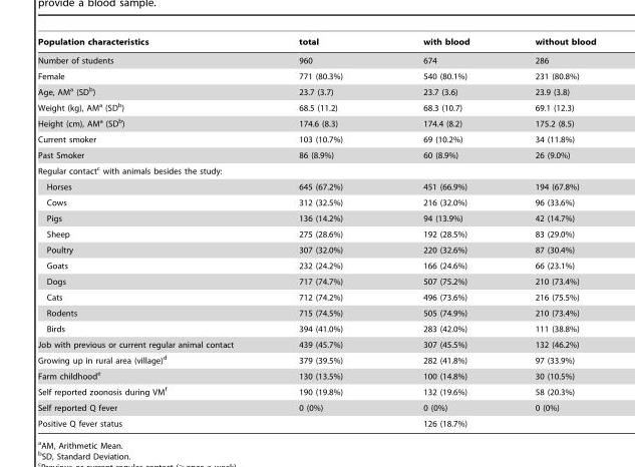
<table><thead><tr><td>Population characteristics</td><td>total</td><td>with blood</td><td>without blood</td></tr></thead><tbody><tr><td>Number of students</td><td>960</td><td>674</td><td>286</td></tr><tr><td>Female</td><td>771 (80.3%)</td><td>540 (80.1%)</td><td>231 (80.8%)</td></tr><tr><td>Age, AM<sup>a</sup> (SD<sup>b</sup>)</td><td>23.7 (3.7)</td><td>23.7 (3.6)</td><td>23.9 (3.8)</td></tr><tr><td>Weight (kg), AM<sup>a</sup> (SD<sup>b</sup>)</td><td>68.5 (11.2)</td><td>68.3 (10.7)</td><td>69.1 (12.3)</td></tr><tr><td>Height (cm), AM<sup>a</sup> (SD<sup>b</sup>)</td><td>174.6 (8.3)</td><td>174.4 (8.2)</td><td>175.2 (8.5)</td></tr><tr><td>Current smoker</td><td>103 (10.7%)</td><td>69 (10.2%)</td><td>34 (11.8%)</td></tr><tr><td>Past Smoker</td><td>86 (8.9%)</td><td>60 (8.9%)</td><td>26 (9.0%)</td></tr><tr><td colspan="4">Regular contact<sup>c</sup> with animals besides the study:</td></tr><tr><td>Horses</td><td>645 (67.2%)</td><td>451 (66.9%)</td><td>194 (67.8%)</td></tr><tr><td>Cows</td><td>312 (32.5%)</td><td>216 (32.0%)</td><td>96 (33.6%)</td></tr><tr><td>Pigs</td><td>136 (14.2%)</td><td>94 (13.9%)</td><td>42 (14.7%)</td></tr><tr><td>Sheep</td><td>275 (28.6%)</td><td>192 (28.5%)</td><td>83 (29.0%)</td></tr><tr><td>Poultry</td><td>307 (32.0%)</td><td>220 (32.6%)</td><td>87 (30.4%)</td></tr><tr><td>Goats</td><td>232 (24.2%)</td><td>166 (24.6%)</td><td>66 (23.1%)</td></tr><tr><td>Dogs</td><td>717 (74.7%)</td><td>507 (75.2%)</td><td>210 (73.4%)</td></tr><tr><td>Cats</td><td>712 (74.2%)</td><td>496 (73.6%)</td><td>216 (75.5%)</td></tr><tr><td>Rodents</td><td>715 (74.5%)</td><td>505 (74.9%)</td><td>210 (73.4%)</td></tr><tr><td>Birds</td><td>394 (41.0%)</td><td>283 (42.0%)</td><td>111 (38.8%)</td></tr><tr><td>Job with previous or current regular animal contact</td><td>439 (45.7%)</td><td>307 (45.5%)</td><td>132 (46.2%)</td></tr><tr><td>Growing up in rural area (village)<sup>d</sup></td><td>379 (39.5%)</td><td>282 (41.8%)</td><td>97 (33.9%)</td></tr><tr><td>Farm childhood<sup>e</sup></td><td>130 (13.5%)</td><td>100 (14.8%)</td><td>30 (10.5%)</td></tr><tr><td>Self reported zoonosis during VM<sup>f</sup></td><td>190 (19.8%)</td><td>132 (19.6%)</td><td>58 (20.3%)</td></tr><tr><td>Self reported Q fever</td><td>0 (0%)</td><td>0 (0%)</td><td>0 (0%)</td></tr><tr><td>Positive Q fever status</td><td></td><td>126 (18.7%)</td><td></td></tr></tbody></table>